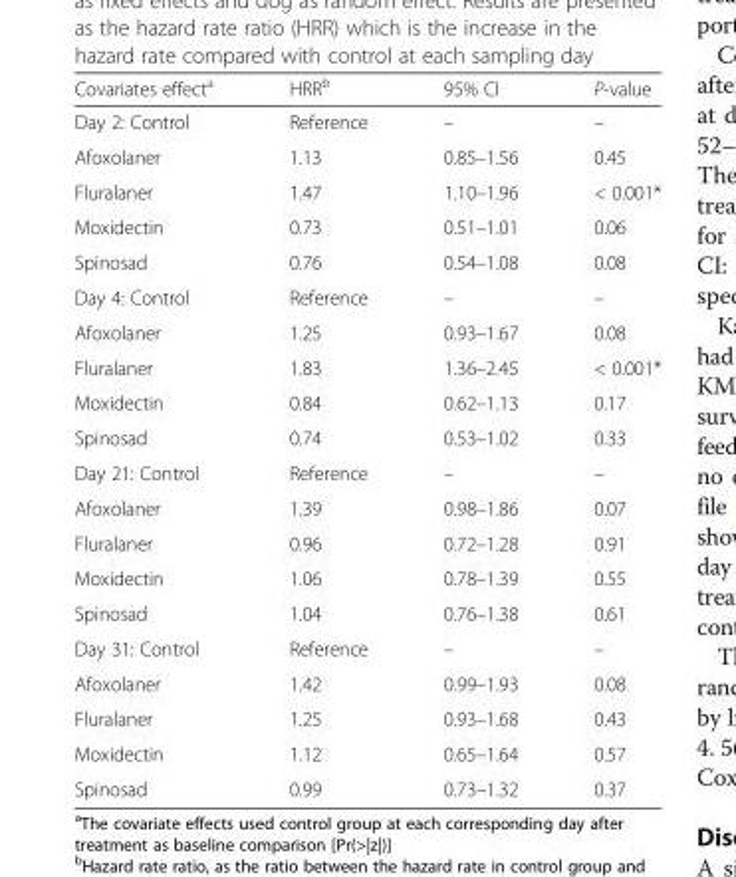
<table><thead><tr><td>Covariates effect<sup>a</sup></td><td>HRR<sup>b</sup></td><td>95% CI</td><td>P-value</td></tr></thead><tbody><tr><td>Day 2: Control</td><td>Reference</td><td>–</td><td>–</td></tr><tr><td>Afoxolaner</td><td>1.13</td><td>0.85–1.56</td><td>0.45</td></tr><tr><td>Fluralaner</td><td>1.47</td><td>1.10–1.96</td><td>&lt; 0.001*</td></tr><tr><td>Moxidectin</td><td>0.73</td><td>0.51–1.01</td><td>0.06</td></tr><tr><td>Spinosad</td><td>0.76</td><td>0.54–1.08</td><td>0.08</td></tr><tr><td>Day 4: Control</td><td>Reference</td><td>–</td><td>–</td></tr><tr><td>Afoxolaner</td><td>1.25</td><td>0.93–1.67</td><td>0.08</td></tr><tr><td>Fluralaner</td><td>1.83</td><td>1.36–2.45</td><td>&lt; 0.001*</td></tr><tr><td>Moxidectin</td><td>0.84</td><td>0.62–1.13</td><td>0.17</td></tr><tr><td>Spinosad</td><td>0.74</td><td>0.53–1.02</td><td>0.33</td></tr><tr><td>Day 21: Control</td><td>Reference</td><td>–</td><td>–</td></tr><tr><td>Afoxolaner</td><td>1.39</td><td>0.98–1.86</td><td>0.07</td></tr><tr><td>Fluralaner</td><td>0.96</td><td>0.72–1.28</td><td>0.91</td></tr><tr><td>Moxidectin</td><td>1.06</td><td>0.78–1.39</td><td>0.55</td></tr><tr><td>Spinosad</td><td>1.04</td><td>0.76–1.38</td><td>0.61</td></tr><tr><td>Day 31: Control</td><td>Reference</td><td>–</td><td>–</td></tr><tr><td>Afoxolaner</td><td>1.42</td><td>0.99–1.93</td><td>0.08</td></tr><tr><td>Fluralaner</td><td>1.25</td><td>0.93–1.68</td><td>0.43</td></tr><tr><td>Moxidectin</td><td>1.12</td><td>0.65–1.64</td><td>0.57</td></tr><tr><td>Spinosad</td><td>0.99</td><td>0.73–1.32</td><td>0.37</td></tr></tbody></table>